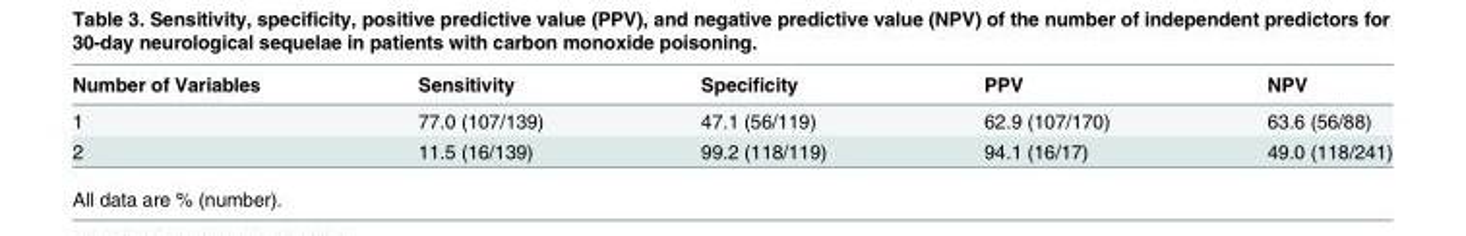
<table><thead><tr><td>Number of Variables</td><td>Sensitivity</td><td>Specificity</td><td>PPV</td><td>NPV</td></tr></thead><tbody><tr><td>1</td><td>77.0 (107/139)</td><td>47.1 (56/119)</td><td>62.9 (107/170)</td><td>63.6 (56/88)</td></tr><tr><td>2</td><td>11.5 (16/139)</td><td>99.2 (118/119)</td><td>94.1 (16/17)</td><td>49.0 (118/241)</td></tr></tbody></table>